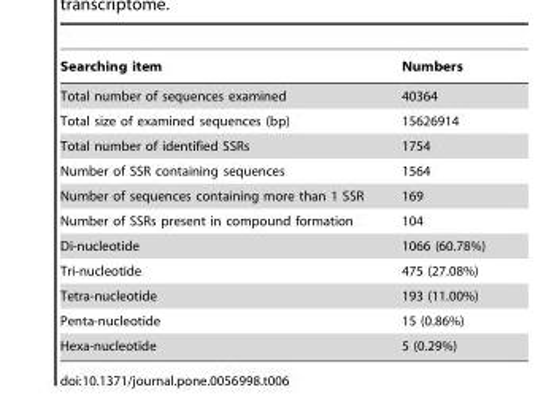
<table><thead><tr><td>Searching item</td><td>Numbers</td></tr></thead><tbody><tr><td>Total number of sequences examined</td><td>40364</td></tr><tr><td>Total size of examined sequences (bp)</td><td>15626914</td></tr><tr><td>Total number of identified SSRs</td><td>1754</td></tr><tr><td>Number of SSR containing sequences</td><td>1564</td></tr><tr><td>Number of sequences containing more than 1 SSR</td><td>169</td></tr><tr><td>Number of SSRs present in compound formation</td><td>104</td></tr><tr><td>Di-nucleotide</td><td>1066 (60.78%)</td></tr><tr><td>Tri-nucleotide</td><td>475 (27.08%)</td></tr><tr><td>Tetra-nucleotide</td><td>193 (11.00%)</td></tr><tr><td>Penta-nucleotide</td><td>15 (0.86%)</td></tr><tr><td>Hexa-nucleotide</td><td>5 (0.29%)</td></tr></tbody></table>